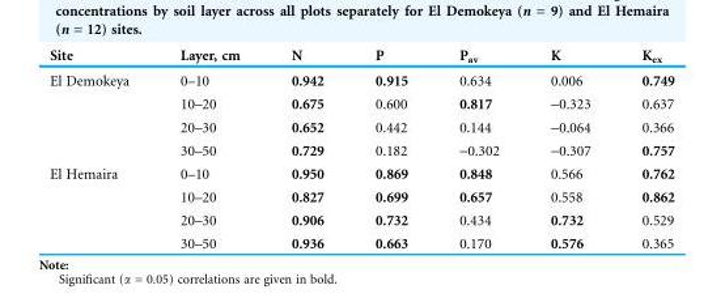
<table><thead><tr><td>Site</td><td>Layer, cm</td><td>N</td><td>P</td><td>P<sub>av</sub></td><td>K</td><td>K<sub>ex</sub></td></tr></thead><tbody><tr><td rowspan="4">El Demokeya</td><td>0–10</td><td>0.942</td><td>0.915</td><td>0.634</td><td>0.006</td><td>0.749</td></tr><tr><td>10–20</td><td>0.675</td><td>0.600</td><td>0.817</td><td>-0.323</td><td>0.637</td></tr><tr><td>20–30</td><td>0.652</td><td>0.442</td><td>0.144</td><td>-0.064</td><td>0.366</td></tr><tr><td>30–50</td><td>0.729</td><td>0.182</td><td>-0.302</td><td>-0.307</td><td>0.757</td></tr><tr><td rowspan="4">El Hemaira</td><td>0–10</td><td>0.950</td><td>0.869</td><td>0.848</td><td>0.566</td><td>0.762</td></tr><tr><td>10–20</td><td>0.827</td><td>0.699</td><td>0.657</td><td>0.558</td><td>0.862</td></tr><tr><td>20–30</td><td>0.906</td><td>0.732</td><td>0.434</td><td>0.732</td><td>0.529</td></tr><tr><td>30–50</td><td>0.936</td><td>0.663</td><td>0.170</td><td>0.576</td><td>0.365</td></tr></tbody></table>